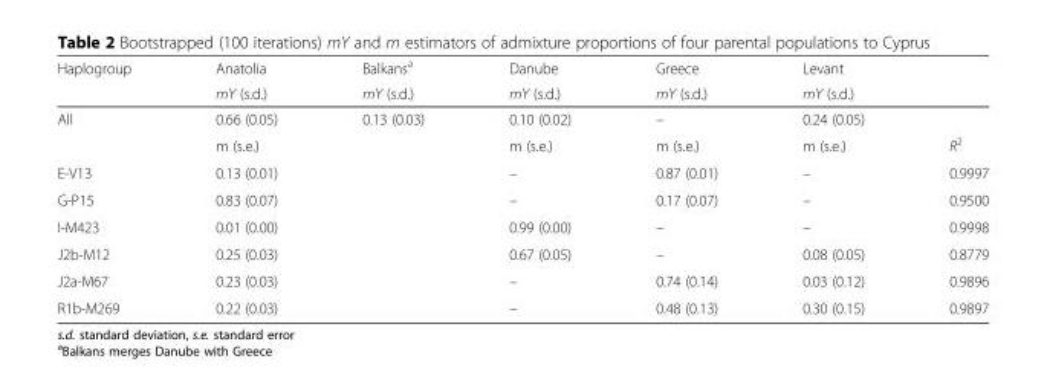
<table><thead><tr><td rowspan="2">Haplogroup</td><td rowspan="2">Anatolia mY (s.d.)</td><td rowspan="2">Balkans<sup>a</sup> mY (s.d.)</td><td rowspan="2">Danube mY (s.d.)</td><td rowspan="2">Greece mY (s.d.)</td><td rowspan="2">Levant mY (s.d.)</td><td rowspan="2"></td></tr><tr></tr></thead><tbody><tr><td rowspan="2">All</td><td>0.66 (0.05)</td><td>0.13 (0.03)</td><td>0.10 (0.02)</td><td>–</td><td>0.24 (0.05)</td><td></td></tr><tr><td>m (s.e.)</td><td></td><td>m (s.e.)</td><td>m (s.e.)</td><td>m (s.e.)</td><td>R<sup>2</sup></td></tr><tr><td>E-V13</td><td>0.13 (0.01)</td><td></td><td>–</td><td>0.87 (0.01)</td><td>–</td><td>0.9997</td></tr><tr><td>G-P15</td><td>0.83 (0.07)</td><td></td><td>–</td><td>0.17 (0.07)</td><td>–</td><td>0.9500</td></tr><tr><td>I-M423</td><td>0.01 (0.00)</td><td></td><td>0.99 (0.00)</td><td>–</td><td>–</td><td>0.9998</td></tr><tr><td>J2b-M12</td><td>0.25 (0.03)</td><td></td><td>0.67 (0.05)</td><td>–</td><td>0.08 (0.05)</td><td>0.8779</td></tr><tr><td>J2a-M67</td><td>0.23 (0.03)</td><td></td><td>–</td><td>0.74 (0.14)</td><td>0.03 (0.12)</td><td>0.9896</td></tr><tr><td>R1b-M269</td><td>0.22 (0.03)</td><td></td><td>–</td><td>0.48 (0.13)</td><td>0.30 (0.15)</td><td>0.9897</td></tr></tbody></table>